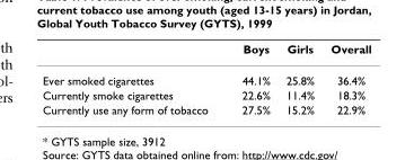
<table><thead><tr><td></td><td>Boys</td><td>Girls</td><td>Overall</td></tr></thead><tbody><tr><td>Ever smoked cigarettes</td><td>44.1%</td><td>25.8%</td><td>36.4%</td></tr><tr><td>Currently smoke cigarettes</td><td>22.6%</td><td>11.4%</td><td>18.3%</td></tr><tr><td>Currently use any form of tobacco</td><td>27.5%</td><td>15.2%</td><td>22.9%</td></tr></tbody></table>